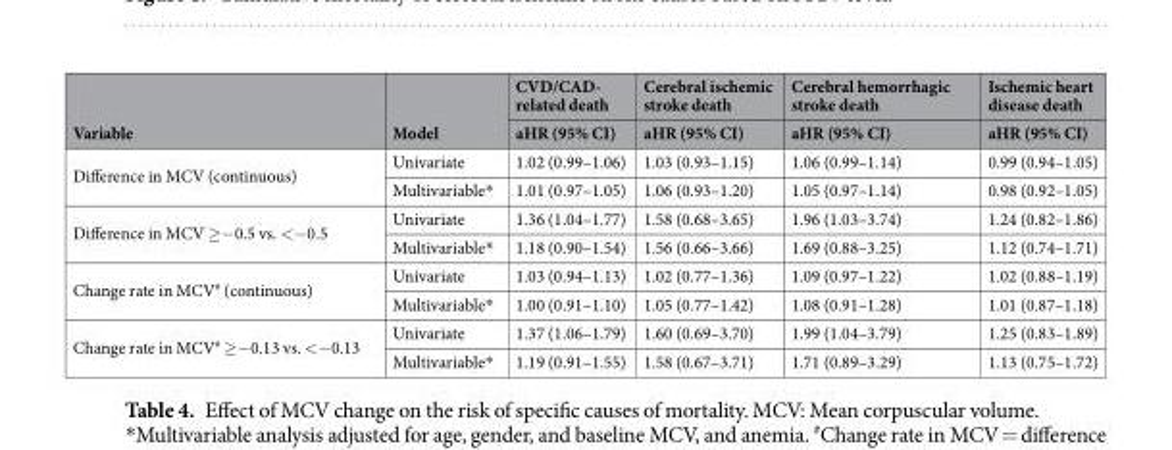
<table><thead><tr><td rowspan="2">Variable</td><td rowspan="2">Model</td><td rowspan="2">CVD/CAD- related death aHR (95% CI)</td><td rowspan="2">Cerebral ischemic stroke death aHR (95% CI)</td><td rowspan="2">Cerebral hemorrhagic stroke death aHR (95% CI)</td><td rowspan="2">Ischemic heart disease death aHR (95% CI)</td></tr><tr></tr></thead><tbody><tr><td rowspan="2">Difference in MCV (continuous)</td><td>Univariate</td><td>1.02 (0.99–1.06)</td><td>1.03 (0.93–1.15)</td><td>1.06 (0.99–1.14)</td><td>0.99 (0.94–1.05)</td></tr><tr><td>Multivariable*</td><td>1.01 (0.97–1.05)</td><td>1.06 (0.93–1.20)</td><td>1.05 (0.97–1.14)</td><td>0.98 (0.92–1.05)</td></tr><tr><td rowspan="2">Difference in MCV ≥−0.5 vs. &lt;−0.5</td><td>Univariate</td><td>1.36 (1.04–1.77)</td><td>1.58 (0.68–3.65)</td><td>1.96 (1.03–3.74)</td><td>1.24 (0.82–1.86)</td></tr><tr><td>Multivariable*</td><td>1.18 (0.90–1.54)</td><td>1.56 (0.66–3.66)</td><td>1.69 (0.88–3.25)</td><td>1.12 (0.74–1.71)</td></tr><tr><td rowspan="2">Change rate in MCV<sup>#</sup> (continuous)</td><td>Univariate</td><td>1.03 (0.94–1.13)</td><td>1.02 (0.77–1.36)</td><td>1.09 (0.97–1.22)</td><td>1.02 (0.88–1.19)</td></tr><tr><td>Multivariable*</td><td>1.00 (0.91–1.10)</td><td>1.05 (0.77–1.42)</td><td>1.08 (0.91–1.28)</td><td>1.01 (0.87–1.18)</td></tr><tr><td rowspan="2">Change rate in MCV<sup>#</sup> ≥−0.13 vs. &lt;−0.13</td><td>Univariate</td><td>1.37 (1.06–1.79)</td><td>1.60 (0.69–3.70)</td><td>1.99 (1.04–3.79)</td><td>1.25 (0.83–1.89)</td></tr><tr><td>Multivariable*</td><td>1.19 (0.91–1.55)</td><td>1.58 (0.67–3.71)</td><td>1.71 (0.89–3.29)</td><td>1.13 (0.75–1.72)</td></tr></tbody></table>